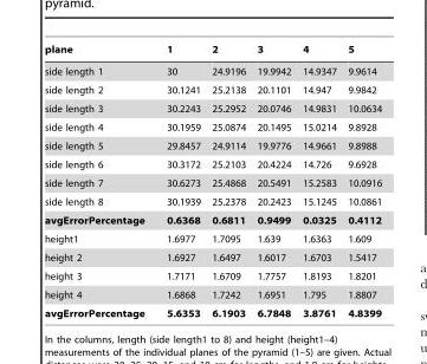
<table><thead><tr><td>plane</td><td>1</td><td>2</td><td>3</td><td>4</td><td>5</td></tr></thead><tbody><tr><td>side length 1</td><td>30</td><td>24.9196</td><td>19.9942</td><td>14.9347</td><td>9.9614</td></tr><tr><td>side length 2</td><td>30.1241</td><td>25.2138</td><td>20.1101</td><td>14.947</td><td>9.9842</td></tr><tr><td>side length 3</td><td>30.2243</td><td>25.2952</td><td>20.0746</td><td>14.9831</td><td>10.0634</td></tr><tr><td>side length 4</td><td>30.1959</td><td>25.0874</td><td>20.1495</td><td>15.0214</td><td>9.8928</td></tr><tr><td>side length 5</td><td>29.8457</td><td>24.9114</td><td>19.9776</td><td>14.9661</td><td>9.8988</td></tr><tr><td>side length 6</td><td>30.3172</td><td>25.2103</td><td>20.4224</td><td>14.726</td><td>9.6928</td></tr><tr><td>side length 7</td><td>30.6273</td><td>25.4868</td><td>20.5491</td><td>15.2583</td><td>10.0916</td></tr><tr><td>side length 8</td><td>30.1939</td><td>25.2378</td><td>20.2423</td><td>15.1245</td><td>10.0861</td></tr><tr><td>avgErrorPercentage</td><td>0.6368</td><td>0.6811</td><td>0.9499</td><td>0.0325</td><td>0.4112</td></tr><tr><td>height1</td><td>1.6977</td><td>1.7095</td><td>1.639</td><td>1.6363</td><td>1.609</td></tr><tr><td>height 2</td><td>1.6927</td><td>1.6497</td><td>1.6017</td><td>1.6703</td><td>1.5417</td></tr><tr><td>height 3</td><td>1.7171</td><td>1.6709</td><td>1.7757</td><td>1.8193</td><td>1.8201</td></tr><tr><td>height 4</td><td>1.6868</td><td>1.7242</td><td>1.6951</td><td>1.795</td><td>1.8807</td></tr><tr><td>avgErrorPercentage</td><td>5.6353</td><td>6.1903</td><td>6.7848</td><td>3.8761</td><td>4.8399</td></tr></tbody></table>